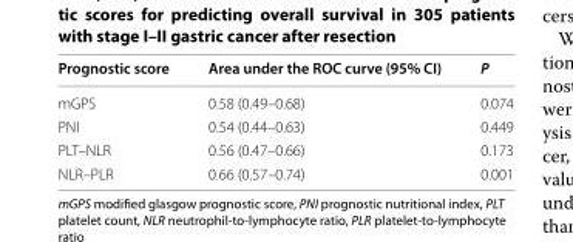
<table><thead><tr><td>Prognostic score</td><td>Area under the ROC curve (95% CI)</td><td>P</td></tr></thead><tbody><tr><td>mGPS</td><td>0.58 (0.49–0.68)</td><td>0.074</td></tr><tr><td>PNI</td><td>0.54 (0.44–0.63)</td><td>0.449</td></tr><tr><td>PLT–NLR</td><td>0.56 (0.47–0.66)</td><td>0.173</td></tr><tr><td>NLR–PLR</td><td>0.66 (0.57–0.74)</td><td>0.001</td></tr></tbody></table>